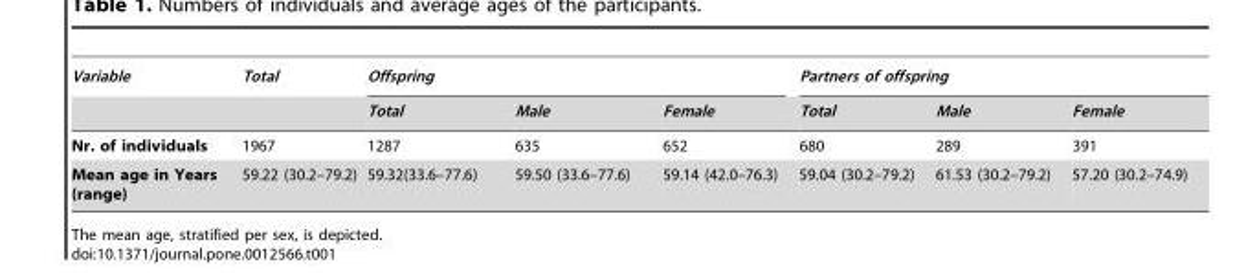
<table><thead><tr><td rowspan="2">Variable</td><td rowspan="2">Total</td><td colspan="3">Offspring</td><td colspan="3">Partners of offspring</td></tr><tr><td>Total</td><td>Male</td><td>Female</td><td>Total</td><td>Male</td><td>Female</td></tr></thead><tbody><tr><td>Nr. of individuals</td><td>1967</td><td>1287</td><td>635</td><td>652</td><td>680</td><td>289</td><td>391</td></tr><tr><td>Mean age in Years (range)</td><td>59.22 (30.2–79.2)</td><td>59.32(33.6–77.6)</td><td>59.50 (33.6–77.6)</td><td>59.14 (42.0–76.3)</td><td>59.04 (30.2–79.2)</td><td>61.53 (30.2–79.2)</td><td>57.20 (30.2–74.9)</td></tr></tbody></table>